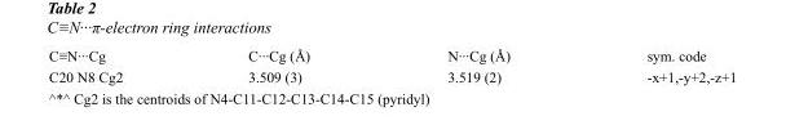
<table><tbody><tr><td>C≡N···Cg</td><td>C···Cg (Å)</td><td>N···Cg (Å)</td><td>sym. code</td></tr><tr><td>C20 N8 Cg2</td><td>3.509 (3)</td><td>3.519 (2)</td><td>-x+1,-y+2,-z+1</td></tr></tbody></table>